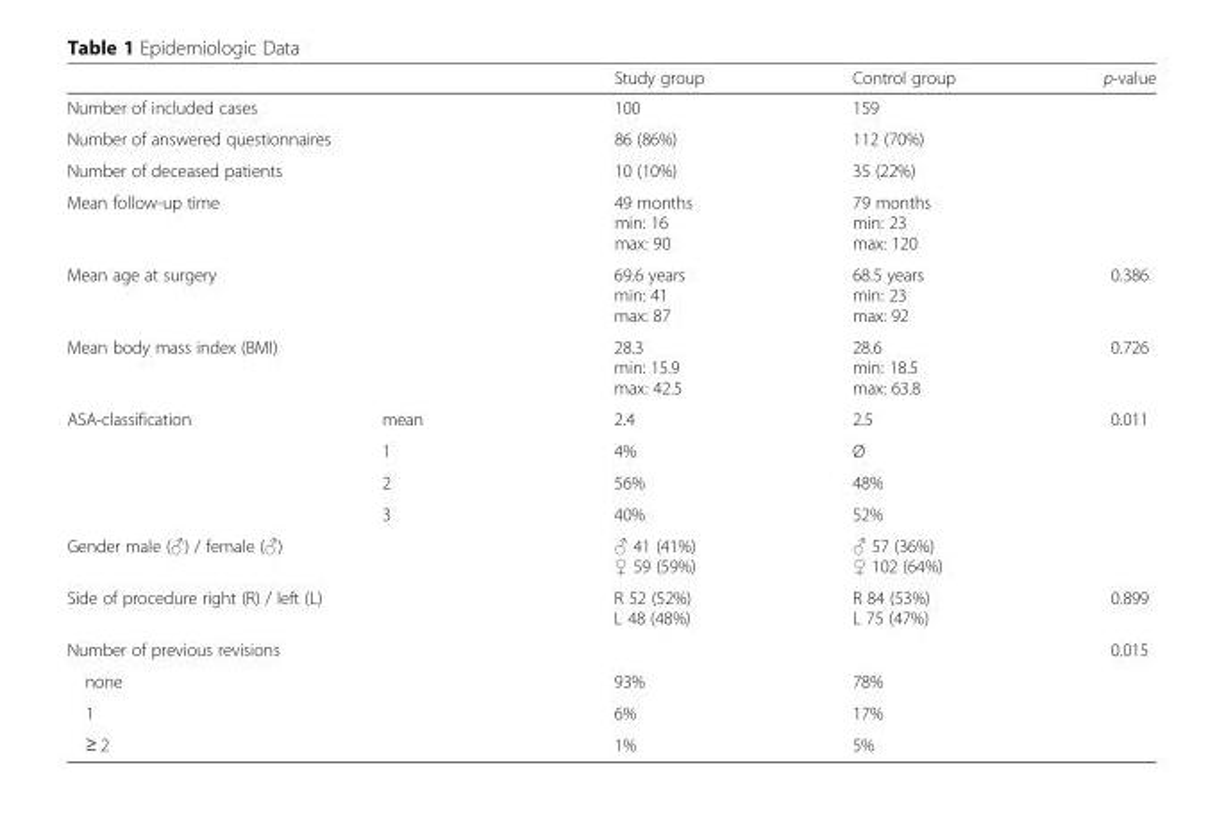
<table><thead><tr><td></td><td></td><td>Study group</td><td>Control group</td><td>p-value</td></tr></thead><tbody><tr><td colspan="2">Number of included cases</td><td>100</td><td>159</td><td></td></tr><tr><td colspan="2">Number of answered questionnaires</td><td>86 (86%)</td><td>112 (70%)</td><td></td></tr><tr><td colspan="2">Number of deceased patients</td><td>10 (10%)</td><td>35 (22%)</td><td></td></tr><tr><td colspan="2">Mean follow-up time</td><td>49 months min: 16 max: 90</td><td>79 months min: 23 max: 120</td><td></td></tr><tr><td colspan="2">Mean age at surgery</td><td>69.6 years min: 41 max: 87</td><td>68.5 years min: 23 max: 92</td><td>0.386</td></tr><tr><td colspan="2">Mean body mass index (BMI)</td><td>28.3 min: 15.9 max: 42.5</td><td>28.6 min: 18.5 max: 63.8</td><td>0.726</td></tr><tr><td rowspan="4">ASA-classification</td><td>mean</td><td>2.4</td><td>2.5</td><td>0.011</td></tr><tr><td>1</td><td>4%</td><td>Ø</td><td></td></tr><tr><td>2</td><td>56%</td><td>48%</td><td></td></tr><tr><td>3</td><td>40%</td><td>52%</td><td></td></tr><tr><td colspan="2">Gender male (♂) / female (♂)</td><td>♂ 41 (41%) ♀ 59 (59%)</td><td>♂ 57 (36%) ♀ 102 (64%)</td><td></td></tr><tr><td colspan="2">Side of procedure right (R) / left (L)</td><td>R 52 (52%) L 48 (48%)</td><td>R 84 (53%) L 75 (47%)</td><td>0.899</td></tr><tr><td colspan="2">Number of previous revisions</td><td></td><td></td><td>0.015</td></tr><tr><td colspan="2">none</td><td>93%</td><td>78%</td><td></td></tr><tr><td colspan="2">1</td><td>6%</td><td>17%</td><td></td></tr><tr><td colspan="2">≥ 2</td><td>1%</td><td>5%</td><td></td></tr></tbody></table>